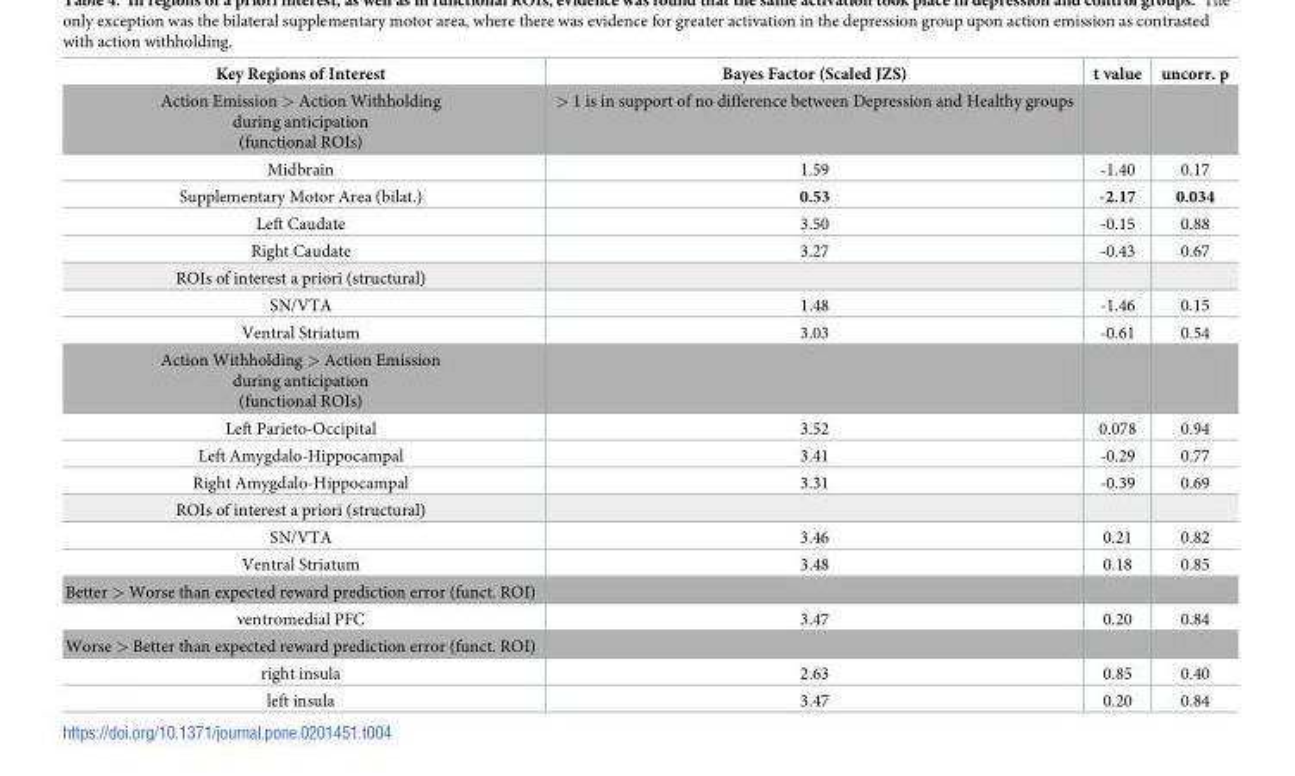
<table><thead><tr><td>Key Regions of Interest</td><td>Bayes Factor (Scaled JZS)</td><td>t value</td><td>uncorr. p</td></tr></thead><tbody><tr><td>Action Emission &gt; Action Withholding during anticipation (functional ROIs)</td><td>&gt; 1 is in support of no difference between Depression and Healthy groups</td><td></td><td></td></tr><tr><td>Midbrain</td><td>1.59</td><td>-1.40</td><td>0.17</td></tr><tr><td>Supplementary Motor Area (bilat.)</td><td>0.53</td><td>-2.17</td><td>0.034</td></tr><tr><td>Left Caudate</td><td>3.50</td><td>-0.15</td><td>0.88</td></tr><tr><td>Right Caudate</td><td>3.27</td><td>-0.43</td><td>0.67</td></tr><tr><td colspan="4">ROIs of interest a priori (structural)</td></tr><tr><td>SN/VTA</td><td>1.48</td><td>-1.46</td><td>0.15</td></tr><tr><td>Ventral Striatum</td><td>3.03</td><td>-0.61</td><td>0.54</td></tr><tr><td colspan="4">Action Withholding &gt; Action Emission during anticipation (functional ROIs)</td></tr><tr><td>Left Parieto-Occipital</td><td>3.52</td><td>0.078</td><td>0.94</td></tr><tr><td>Left Amygdalo-Hippocampal</td><td>3.41</td><td>-0.29</td><td>0.77</td></tr><tr><td>Right Amygdalo-Hippocampal</td><td>3.31</td><td>-0.39</td><td>0.69</td></tr><tr><td colspan="4">ROIs of interest a priori (structural)</td></tr><tr><td>SN/VTA</td><td>3.46</td><td>0.21</td><td>0.82</td></tr><tr><td>Ventral Striatum</td><td>3.48</td><td>0.18</td><td>0.85</td></tr><tr><td colspan="4">Better &gt; Worse than expected reward prediction error (funct. ROI)</td></tr><tr><td>ventromedial PFC</td><td>3.47</td><td>0.20</td><td>0.84</td></tr><tr><td colspan="4">Worse &gt; Better than expected reward prediction error (funct. ROI)</td></tr><tr><td>right insula</td><td>2.63</td><td>0.85</td><td>0.40</td></tr><tr><td>left insula</td><td>3.47</td><td>0.20</td><td>0.84</td></tr></tbody></table>